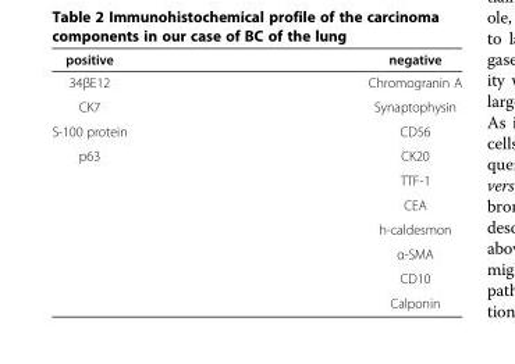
<table><thead><tr><td>positive</td><td>negative</td></tr></thead><tbody><tr><td>34βE12</td><td>Chromogranin A</td></tr><tr><td>CK7</td><td>Synaptophysin</td></tr><tr><td>S-100 protein</td><td>CD56</td></tr><tr><td rowspan="7">p63</td><td>CK20</td></tr><tr><td>TTF-1</td></tr><tr><td>CEA</td></tr><tr><td>h-caldesmon</td></tr><tr><td>α-SMA</td></tr><tr><td>CD10</td></tr><tr><td>Calponin</td></tr></tbody></table>